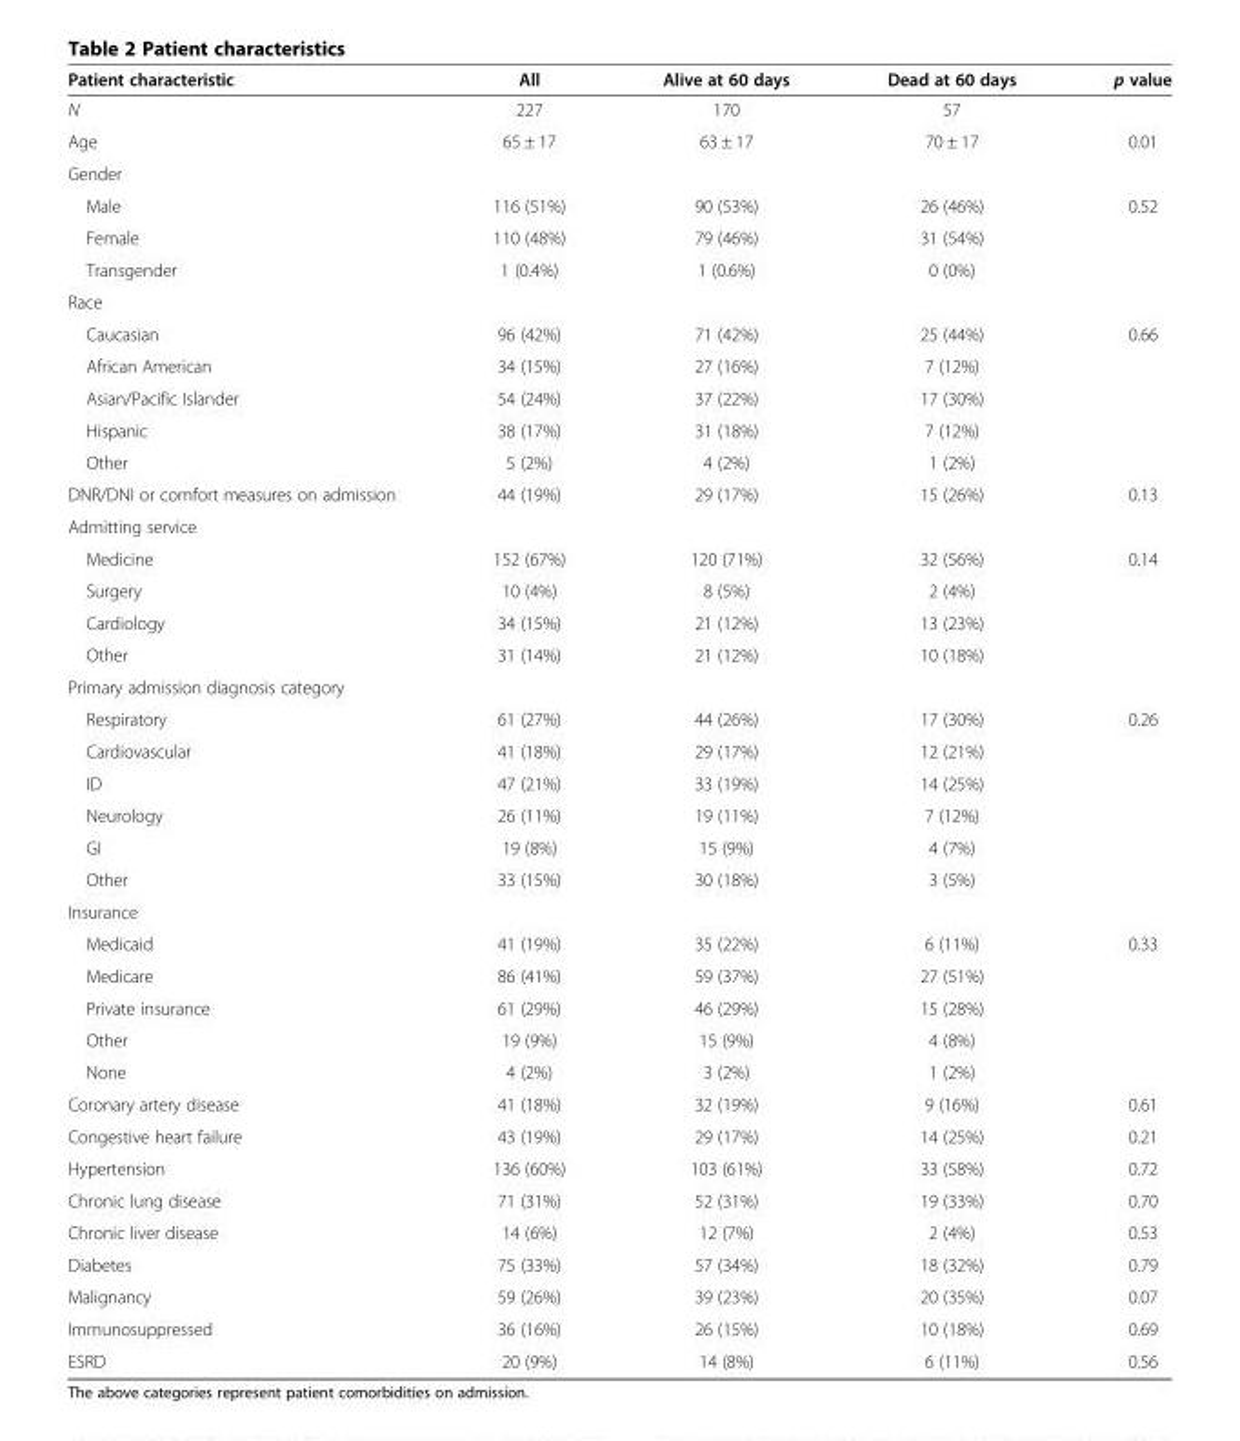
<table><thead><tr><td>Patient characteristic</td><td>All</td><td>Alive at 60 days</td><td>Dead at 60 days</td><td>p value</td></tr></thead><tbody><tr><td>N</td><td>227</td><td>170</td><td>57</td><td></td></tr><tr><td>Age</td><td>65 ± 17</td><td>63 ± 17</td><td>70 ± 17</td><td>0.01</td></tr><tr><td colspan="5">Gender</td></tr><tr><td>Male</td><td>116 (51%)</td><td>90 (53%)</td><td>26 (46%)</td><td>0.52</td></tr><tr><td>Female</td><td>110 (48%)</td><td>79 (46%)</td><td>31 (54%)</td><td></td></tr><tr><td>Transgender</td><td>1 (0.4%)</td><td>1 (0.6%)</td><td>0 (0%)</td><td></td></tr><tr><td colspan="5">Race</td></tr><tr><td>Caucasian</td><td>96 (42%)</td><td>71 (42%)</td><td>25 (44%)</td><td>0.66</td></tr><tr><td>African American</td><td>34 (15%)</td><td>27 (16%)</td><td>7 (12%)</td><td></td></tr><tr><td>Asian/Pacific Islander</td><td>54 (24%)</td><td>37 (22%)</td><td>17 (30%)</td><td></td></tr><tr><td>Hispanic</td><td>38 (17%)</td><td>31 (18%)</td><td>7 (12%)</td><td></td></tr><tr><td>Other</td><td>5 (2%)</td><td>4 (2%)</td><td>1 (2%)</td><td></td></tr><tr><td>DNR/DNI or comfort measures on admission</td><td>44 (19%)</td><td>29 (17%)</td><td>15 (26%)</td><td>0.13</td></tr><tr><td colspan="5">Admitting service</td></tr><tr><td>Medicine</td><td>152 (67%)</td><td>120 (71%)</td><td>32 (56%)</td><td>0.14</td></tr><tr><td>Surgery</td><td>10 (4%)</td><td>8 (5%)</td><td>2 (4%)</td><td></td></tr><tr><td>Cardiology</td><td>34 (15%)</td><td>21 (12%)</td><td>13 (23%)</td><td></td></tr><tr><td>Other</td><td>31 (14%)</td><td>21 (12%)</td><td>10 (18%)</td><td></td></tr><tr><td colspan="5">Primary admission diagnosis category</td></tr><tr><td>Respiratory</td><td>61 (27%)</td><td>44 (26%)</td><td>17 (30%)</td><td>0.26</td></tr><tr><td>Cardiovascular</td><td>41 (18%)</td><td>29 (17%)</td><td>12 (21%)</td><td></td></tr><tr><td>ID</td><td>47 (21%)</td><td>33 (19%)</td><td>14 (25%)</td><td></td></tr><tr><td>Neurology</td><td>26 (11%)</td><td>19 (11%)</td><td>7 (12%)</td><td></td></tr><tr><td>GI</td><td>19 (8%)</td><td>15 (9%)</td><td>4 (7%)</td><td></td></tr><tr><td>Other</td><td>33 (15%)</td><td>30 (18%)</td><td>3 (5%)</td><td></td></tr><tr><td colspan="5">Insurance</td></tr><tr><td>Medicaid</td><td>41 (19%)</td><td>35 (22%)</td><td>6 (11%)</td><td>0.33</td></tr><tr><td>Medicare</td><td>86 (41%)</td><td>59 (37%)</td><td>27 (51%)</td><td></td></tr><tr><td>Private insurance</td><td>61 (29%)</td><td>46 (29%)</td><td>15 (28%)</td><td></td></tr><tr><td>Other</td><td>19 (9%)</td><td>15 (9%)</td><td>4 (8%)</td><td></td></tr><tr><td>None</td><td>4 (2%)</td><td>3 (2%)</td><td>1 (2%)</td><td></td></tr><tr><td>Coronary artery disease</td><td>41 (18%)</td><td>32 (19%)</td><td>9 (16%)</td><td>0.61</td></tr><tr><td>Congestive heart failure</td><td>43 (19%)</td><td>29 (17%)</td><td>14 (25%)</td><td>0.21</td></tr><tr><td>Hypertension</td><td>136 (60%)</td><td>103 (61%)</td><td>33 (58%)</td><td>0.72</td></tr><tr><td>Chronic lung disease</td><td>71 (31%)</td><td>52 (31%)</td><td>19 (33%)</td><td>0.70</td></tr><tr><td>Chronic liver disease</td><td>14 (6%)</td><td>12 (7%)</td><td>2 (4%)</td><td>0.53</td></tr><tr><td>Diabetes</td><td>75 (33%)</td><td>57 (34%)</td><td>18 (32%)</td><td>0.79</td></tr><tr><td>Malignancy</td><td>59 (26%)</td><td>39 (23%)</td><td>20 (35%)</td><td>0.07</td></tr><tr><td>Immunosuppressed</td><td>36 (16%)</td><td>26 (15%)</td><td>10 (18%)</td><td>0.69</td></tr><tr><td>ESRD</td><td>20 (9%)</td><td>14 (8%)</td><td>6 (11%)</td><td>0.56</td></tr></tbody></table>